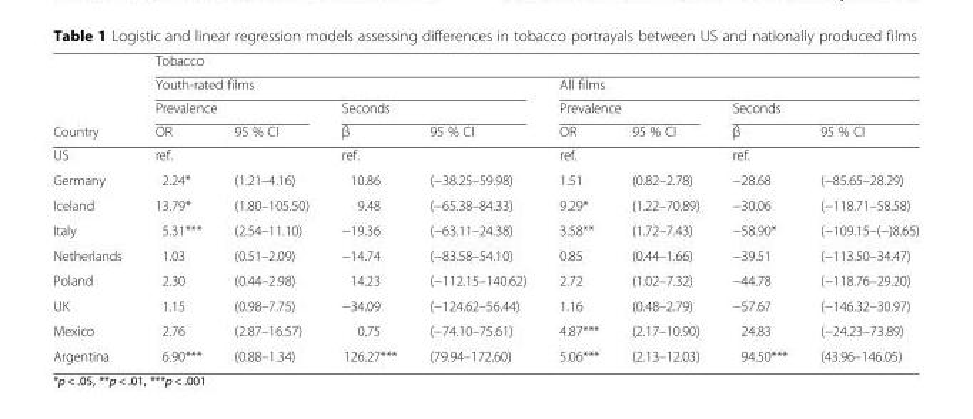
<table><thead><tr><td rowspan="4">Country</td><td colspan="8">Tobacco</td></tr><tr><td colspan="4">Youth-rated films</td><td colspan="4">All films</td></tr><tr><td colspan="2">Prevalence</td><td colspan="2">Seconds</td><td colspan="2">Prevalence</td><td colspan="2">Seconds</td></tr><tr><td>OR</td><td>95 % CI</td><td>β</td><td>95 % CI</td><td>OR</td><td>95 % CI</td><td>β</td><td>95 % CI</td></tr></thead><tbody><tr><td>US</td><td>ref.</td><td></td><td>ref.</td><td></td><td>ref.</td><td></td><td>ref.</td><td></td></tr><tr><td>Germany</td><td>2.24*</td><td>(1.21–4.16)</td><td>10.86</td><td>(−38.25–59.98)</td><td>1.51</td><td>(0.82–2.78)</td><td>−28.68</td><td>(−85.65–28.29)</td></tr><tr><td>Iceland</td><td>13.79*</td><td>(1.80–105.50)</td><td>9.48</td><td>(−65.38–84.33)</td><td>9.29*</td><td>(1.22–70.89)</td><td>−30.06</td><td>(−118.71–58.58)</td></tr><tr><td>Italy</td><td>5.31***</td><td>(2.54–11.10)</td><td>−19.36</td><td>(−63.11–24.38)</td><td>3.58**</td><td>(1.72–7.43)</td><td>−58.90*</td><td>(−109.15–(−)8.65)</td></tr><tr><td>Netherlands</td><td>1.03</td><td>(0.51–2.09)</td><td>−14.74</td><td>(−83.58–54.10)</td><td>0.85</td><td>(0.44–1.66)</td><td>−39.51</td><td>(−113.50–34.47)</td></tr><tr><td>Poland</td><td>2.30</td><td>(0.44–2.98)</td><td>14.23</td><td>(−112.15–140.62)</td><td>2.72</td><td>(1.02–7.32)</td><td>−44.78</td><td>(−118.76–29.20)</td></tr><tr><td>UK</td><td>1.15</td><td>(0.98–7.75)</td><td>−34.09</td><td>(−124.62–56.44)</td><td>1.16</td><td>(0.48–2.79)</td><td>−57.67</td><td>(−146.32–30.97)</td></tr><tr><td>Mexico</td><td>2.76</td><td>(2.87–16.57)</td><td>0.75</td><td>(−74.10–75.61)</td><td>4.87***</td><td>(2.17–10.90)</td><td>24.83</td><td>(−24.23–73.89)</td></tr><tr><td>Argentina</td><td>6.90***</td><td>(0.88–1.34)</td><td>126.27***</td><td>(79.94–172.60)</td><td>5.06***</td><td>(2.13–12.03)</td><td>94.50***</td><td>(43.96–146.05)</td></tr></tbody></table>